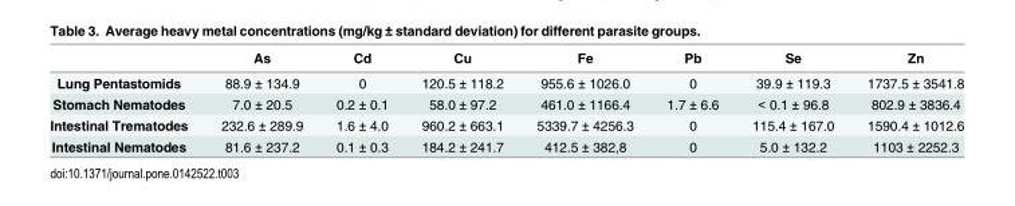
<table><thead><tr><td></td><td>As</td><td>Cd</td><td>Cu</td><td>Fe</td><td>Pb</td><td>Se</td><td>Zn</td></tr></thead><tbody><tr><td>Lung Pentastomids</td><td>88.9 ± 134.9</td><td>0</td><td>120.5 ± 118.2</td><td>955.6 ± 1026.0</td><td>0</td><td>39.9 ± 119.3</td><td>1737.5 ± 3541.8</td></tr><tr><td>Stomach Nematodes</td><td>7.0 ± 20.5</td><td>0.2 ± 0.1</td><td>58.0 ± 97.2</td><td>461.0 ± 1166.4</td><td>1.7 ± 6.6</td><td>&lt; 0.1 ± 96.8</td><td>802.9 ± 3836.4</td></tr><tr><td>Intestinal Trematodes</td><td>232.6 ± 289.9</td><td>1.6 ± 4.0</td><td>960.2 ± 663.1</td><td>5339.7 ± 4256.3</td><td>0</td><td>115.4 ± 167.0</td><td>1590.4 ± 1012.6</td></tr><tr><td>Intestinal Nematodes</td><td>81.6 ± 237.2</td><td>0.1 ± 0.3</td><td>184.2 ± 241.7</td><td>412.5 ± 382,8</td><td>0</td><td>5.0 ± 132.2</td><td>1103 ± 2252.3</td></tr></tbody></table>